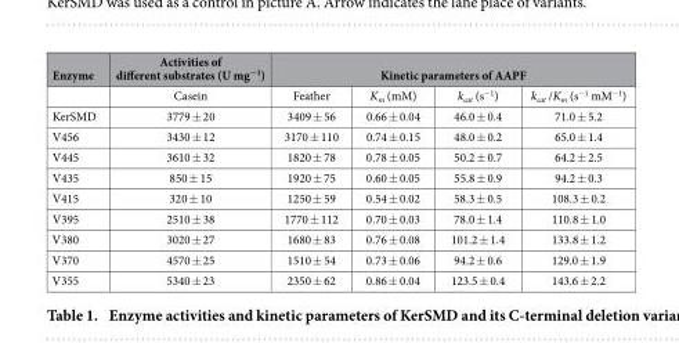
<table><thead><tr><td rowspan="2">Enzyme</td><td rowspan="2">Activities of different substrates (U mg<sup>−1</sup>) Casein</td><td colspan="4">Kinetic parameters of AAPF</td></tr><tr><td>Feather</td><td>K<sub>m</sub> (mM)</td><td>k<sub>cat</sub> (s<sup>−1</sup>)</td><td>k<sub>cat</sub> /K<sub>m</sub> (s<sup>−1</sup> mM<sup>−1</sup>)</td></tr></thead><tbody><tr><td>KerSMD</td><td>3779 ± 20</td><td>3409 ± 56</td><td>0.66 ± 0.04</td><td>46.0 ± 0.4</td><td>71.0 ± 5.2</td></tr><tr><td>V456</td><td>3430 ± 12</td><td>3170 ± 110</td><td>0.74 ± 0.15</td><td>48.0 ± 0.2</td><td>65.0 ± 1.4</td></tr><tr><td>V445</td><td>3610 ± 32</td><td>1820 ± 78</td><td>0.78 ± 0.05</td><td>50.2 ± 0.7</td><td>64.2 ± 2.5</td></tr><tr><td>V435</td><td>850 ± 15</td><td>1920 ± 75</td><td>0.60 ± 0.05</td><td>55.8 ± 0.9</td><td>94.2 ± 0.3</td></tr><tr><td>V415</td><td>320 ± 10</td><td>1250 ± 59</td><td>0.54 ± 0.02</td><td>58.3 ± 0.5</td><td>108.3 ± 0.2</td></tr><tr><td>V395</td><td>2510 ± 38</td><td>1770 ± 112</td><td>0.70 ± 0.03</td><td>78.0 ± 1.4</td><td>110.8 ± 1.0</td></tr><tr><td>V380</td><td>3020 ± 27</td><td>1680 ± 83</td><td>0.76 ± 0.08</td><td>101.2 ± 1.4</td><td>133.8 ± 1.2</td></tr><tr><td>V370</td><td>4570 ± 25</td><td>1510 ± 54</td><td>0.73 ± 0.06</td><td>94.2 ± 0.6</td><td>129.0 ± 1.9</td></tr><tr><td>V355</td><td>5340 ± 23</td><td>2350 ± 62</td><td>0.86 ± 0.04</td><td>123.5 ± 0.4</td><td>143.6 ± 2.2</td></tr></tbody></table>